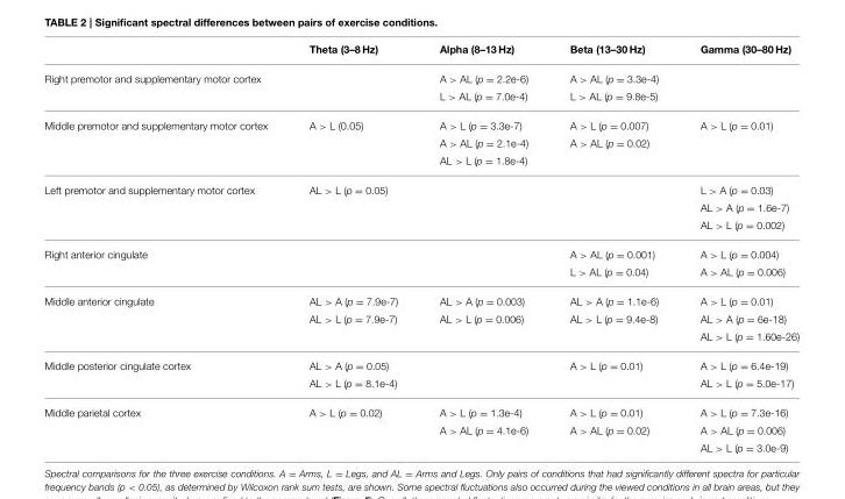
<table><thead><tr><td></td><td>Theta (3–8 Hz)</td><td>Alpha (8–13 Hz)</td><td>Beta (13–30 Hz)</td><td>Gamma (30–80 Hz)</td></tr></thead><tbody><tr><td rowspan="2">Right premotor and supplementary motor cortex</td><td></td><td>A &gt; AL (p = 2.2e-6)</td><td>A &gt; AL (p = 3.3e-4)</td><td></td></tr><tr><td></td><td>L &gt; AL (p = 7.0e-4)</td><td>L &gt; AL (p = 9.8e-5)</td><td></td></tr><tr><td rowspan="3">Middle premotor and supplementary motor cortex</td><td>A &gt; L (0.05)</td><td>A &gt; L (p = 3.3e-7)</td><td>A &gt; L (p = 0.007)</td><td>A &gt; L (p = 0.01)</td></tr><tr><td></td><td>A &gt; AL (p = 2.1e-4)</td><td>A &gt; AL (p = 0.02)</td><td></td></tr><tr><td></td><td>AL &gt; L (p = 1.8e-4)</td><td></td><td></td></tr><tr><td rowspan="3">Left premotor and supplementary motor cortex</td><td>AL &gt; L (p = 0.05)</td><td></td><td></td><td>L &gt; A (p = 0.03)</td></tr><tr><td></td><td></td><td></td><td>AL &gt; A (p = 1.6e-7)</td></tr><tr><td></td><td></td><td></td><td>AL &gt; L (p = 0.002)</td></tr><tr><td rowspan="2">Right anterior cingulate</td><td></td><td></td><td>A &gt; AL (p = 0.001)</td><td>A &gt; L (p = 0.004)</td></tr><tr><td></td><td></td><td>L &gt; AL (p = 0.04)</td><td>A &gt; AL (p = 0.006)</td></tr><tr><td rowspan="3">Middle anterior cingulate</td><td>AL &gt; A (p = 7.9e-7)</td><td>AL &gt; A (p = 0.003)</td><td>AL &gt; A (p = 1.1e-6)</td><td>A &gt; L (p = 0.01)</td></tr><tr><td>AL &gt; L (p = 7.9e-7)</td><td>AL &gt; L (p = 0.006)</td><td>AL &gt; L (p = 9.4e-8)</td><td>AL &gt; A (p = 6e-18)</td></tr><tr><td></td><td></td><td></td><td>AL &gt; L (p = 1.60e-26)</td></tr><tr><td rowspan="2">Middle posterior cingulate cortex</td><td>AL &gt; A (p = 0.05)</td><td></td><td>A &gt; L (p = 0.01)</td><td>A &gt; L (p = 6.4e-19)</td></tr><tr><td>AL &gt; L (p = 8.1e-4)</td><td></td><td></td><td>AL &gt; L (p = 5.0e-17)</td></tr><tr><td rowspan="3">Middle parietal cortex</td><td>A &gt; L (p = 0.02)</td><td>A &gt; L (p = 1.3e-4)</td><td>A &gt; L (p = 0.01)</td><td>A &gt; L (p = 7.3e-16)</td></tr><tr><td></td><td>A &gt; AL (p = 4.1e-6)</td><td>A &gt; AL (p = 0.02)</td><td>A &gt; AL (p = 0.006)</td></tr><tr><td></td><td></td><td></td><td>AL &gt; L (p = 3.0e-9)</td></tr></tbody></table>